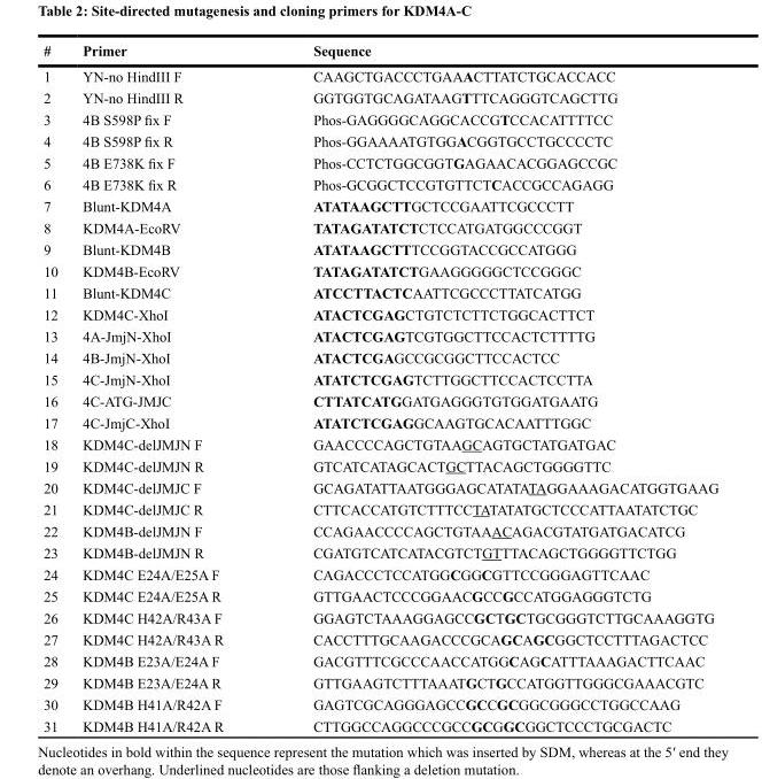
<table><thead><tr><td>#</td><td>Primer</td><td>Sequence</td></tr></thead><tbody><tr><td>1</td><td>YN-no HindIII F</td><td>CAAGCTGACCCTGAAACTTATCTGCACCACC</td></tr><tr><td>2</td><td>YN-no HindIII R</td><td>GGTGGTGCAGATAAGTTTCAGGGTCAGCTTG</td></tr><tr><td>3</td><td>4B S598P fix F</td><td>Phos-GAGGGGCAGGCACCGTCCACATTTTCC</td></tr><tr><td>4</td><td>4B S598P fix R</td><td>Phos-GGAAAATGTGGACGGTGCCTGCCCCTC</td></tr><tr><td>5</td><td>4B E738K fix F</td><td>Phos-CCTCTGGCGGTGAGAACACGGAGCCGC</td></tr><tr><td>6</td><td>4B E738K fix R</td><td>Phos-GCGGCTCCGTGTTCTCACCGCCAGAGG</td></tr><tr><td>7</td><td>Blunt-KDM4A</td><td>ATATAAGCTTGCTCCGAATTCGCCCTT</td></tr><tr><td>8</td><td>KDM4A-EcoRV</td><td>TATAGATATCTCTCCATGATGGCCCGGT</td></tr><tr><td>9</td><td>Blunt-KDM4B</td><td>ATATAAGCTTTCCGGTACCGCCATGGG</td></tr><tr><td>10</td><td>KDM4B-EcoRV</td><td>TATAGATATCTGAAGGGGGCTCCGGGC</td></tr><tr><td>11</td><td>Blunt-KDM4C</td><td>ATCCTTACTCAATTCGCCCTTATCATGG</td></tr><tr><td>12</td><td>KDM4C-XhoI</td><td>ATACTCGAGCTGTCTCTTCTGGCACTTCT</td></tr><tr><td>13</td><td>4A-JmjN-XhoI</td><td>ATACTCGAGTCGTGGCTTCCACTCTTTTG</td></tr><tr><td>14</td><td>4B-JmjN-XhoI</td><td>ATACTCGAGCCGCGGCTTCCACTCC</td></tr><tr><td>15</td><td>4C-JmjN-XhoI</td><td>ATATCTCGAGTCTTGGCTTCCACTCCTTA</td></tr><tr><td>16</td><td>4C-ATG-JMJC</td><td>CTTATCATGGATGAGGGTGTGGATGAATG</td></tr><tr><td>17</td><td>4C-JmjC-XhoI</td><td>ATATCTCGAGGCAAGTGCACAATTTGGC</td></tr><tr><td>18</td><td>KDM4C-delJMJN F</td><td>GAACCCCAGCTGTAAGCAGTGCTATGATGAC</td></tr><tr><td>19</td><td>KDM4C-delJMJN R</td><td>GTCATCATAGCACTGCTTACAGCTGGGGTTC</td></tr><tr><td>20</td><td>KDM4C-delJMJC F</td><td>GCAGATATTAATGGGAGCATATATAGGAAAGACATGGTGAAG</td></tr><tr><td>21</td><td>KDM4C-delJMJC R</td><td>CTTCACCATGTCTTTCCTATATATGCTCCCATTAATATCTGC</td></tr><tr><td>22</td><td>KDM4B-delJMJN F</td><td>CCAGAACCCCAGCTGTAAACAGACGTATGATGACATCG</td></tr><tr><td>23</td><td>KDM4B-delJMJN R</td><td>CGATGTCATCATACGTCTGTTTACAGCTGGGGTTCTGG</td></tr><tr><td>24</td><td>KDM4C E24A/E25A F</td><td>CAGACCCTCCATGGCGGCGTTCCGGGAGTTCAAC</td></tr><tr><td>25</td><td>KDM4C E24A/E25A R</td><td>GTTGAACTCCCGGAACGCCGCCATGGAGGGTCTG</td></tr><tr><td>26</td><td>KDM4C H42A/R43A F</td><td>GGAGTCTAAAGGAGCCGCTGCTGCGGGTCTTGCAAAGGTG</td></tr><tr><td>27</td><td>KDM4C H42A/R43A R</td><td>CACCTTTGCAAGACCCGCAGCAGCGGCTCCTTTAGACTCC</td></tr><tr><td>28</td><td>KDM4B E23A/E24A F</td><td>GACGTTTCGCCCAACCATGGCAGCATTTAAAGACTTCAAC</td></tr><tr><td>29</td><td>KDM4B E23A/E24A R</td><td>GTTGAAGTCTTTAAATGCTGCCATGGTTGGGCGAAACGTC</td></tr><tr><td>30</td><td>KDM4B H41A/R42A F</td><td>GAGTCGCAGGGAGCCGCCGCGGCGGGCCTGGCCAAG</td></tr><tr><td>31</td><td>KDM4B H41A/R42A R</td><td>CTTGGCCAGGCCCGCCGCGGCGGCTCCCTGCGACTC</td></tr></tbody></table>